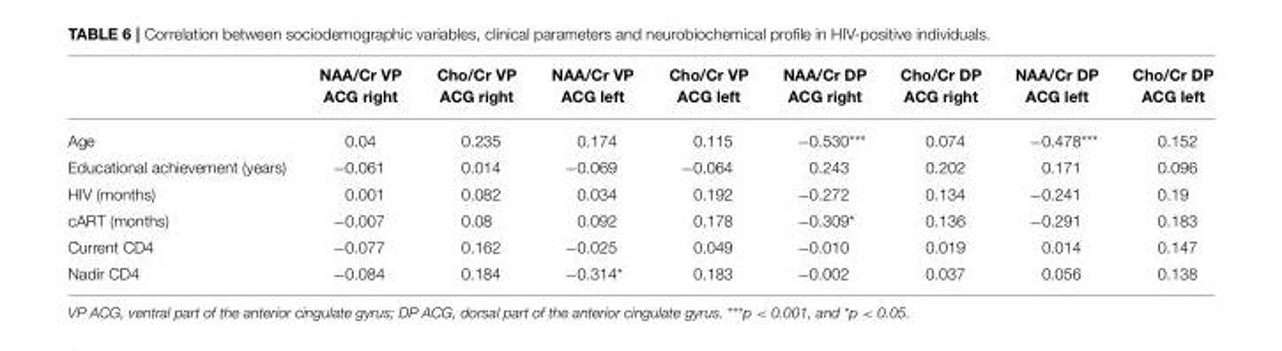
<table><thead><tr><td></td><td>NAA/Cr VP ACG right</td><td>Cho/Cr VP ACG right</td><td>NAA/Cr VP ACG left</td><td>Cho/Cr VP ACG left</td><td>NAA/Cr DP ACG right</td><td>Cho/Cr DP ACG right</td><td>NAA/Cr DP ACG left</td><td>Cho/Cr DP ACG left</td></tr></thead><tbody><tr><td>Age</td><td>0.04</td><td>0.235</td><td>0.174</td><td>0.115</td><td>−0.530***</td><td>0.074</td><td>−0.478***</td><td>0.152</td></tr><tr><td>Educational achievement (years)</td><td>−0.061</td><td>0.014</td><td>−0.069</td><td>−0.064</td><td>0.243</td><td>0.202</td><td>0.171</td><td>0.096</td></tr><tr><td>HIV (months)</td><td>0.001</td><td>0.082</td><td>0.034</td><td>0.192</td><td>−0.272</td><td>0.134</td><td>−0.241</td><td>0.19</td></tr><tr><td>cART (months)</td><td>−0.007</td><td>0.08</td><td>0.092</td><td>0.178</td><td>−0.309*</td><td>0.136</td><td>−0.291</td><td>0.183</td></tr><tr><td>Current CD4</td><td>−0.077</td><td>0.162</td><td>−0.025</td><td>0.049</td><td>−0.010</td><td>0.019</td><td>0.014</td><td>0.147</td></tr><tr><td>Nadir CD4</td><td>−0.084</td><td>0.184</td><td>−0.314*</td><td>0.183</td><td>−0.002</td><td>0.037</td><td>0.056</td><td>0.138</td></tr></tbody></table>